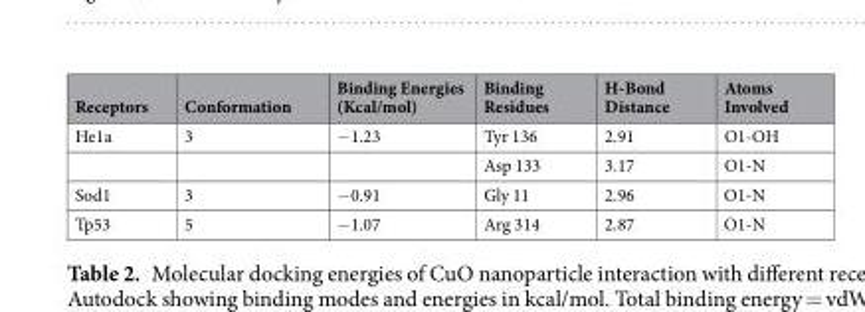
<table><thead><tr><td>Receptors</td><td>Conformation</td><td>Binding Energies (Kcal/mol)</td><td>Binding Residues</td><td>H-Bond Distance</td><td>Atoms Involved</td></tr></thead><tbody><tr><td rowspan="2">He1a</td><td>3</td><td>−1.23</td><td>Tyr 136</td><td>2.91</td><td>O1-OH</td></tr><tr><td></td><td></td><td>Asp 133</td><td>3.17</td><td>O1-N</td></tr><tr><td>Sod1</td><td>3</td><td>−0.91</td><td>Gly 11</td><td>2.96</td><td>O1-N</td></tr><tr><td>Tp53</td><td>5</td><td>−1.07</td><td>Arg 314</td><td>2.87</td><td>O1-N</td></tr></tbody></table>